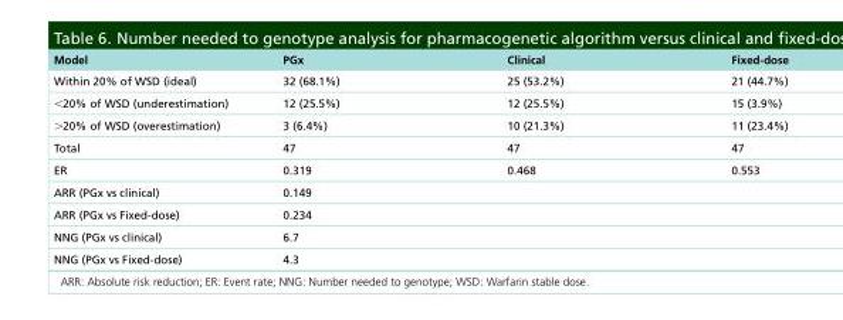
<table><thead><tr><td>Model</td><td>PGx</td><td>Clinical</td><td>Fixed-dose</td></tr></thead><tbody><tr><td>Within 20% of WSD (ideal)</td><td>32 (68.1%)</td><td>25 (53.2%)</td><td>21 (44.7%)</td></tr><tr><td>&lt;20% of WSD (underestimation)</td><td>12 (25.5%)</td><td>12 (25.5%)</td><td>15 (3.9%)</td></tr><tr><td>&gt;20% of WSD (overestimation)</td><td>3 (6.4%)</td><td>10 (21.3%)</td><td>11 (23.4%)</td></tr><tr><td>Total</td><td>47</td><td>47</td><td>47</td></tr><tr><td>ER</td><td>0.319</td><td>0.468</td><td>0.553</td></tr><tr><td>ARR (PGx vs clinical)</td><td>0.149</td><td></td><td></td></tr><tr><td>ARR (PGx vs Fixed-dose)</td><td>0.234</td><td></td><td></td></tr><tr><td>NNG (PGx vs clinical)</td><td>6.7</td><td></td><td></td></tr><tr><td>NNG (PGx vs Fixed-dose)</td><td>4.3</td><td></td><td></td></tr></tbody></table>